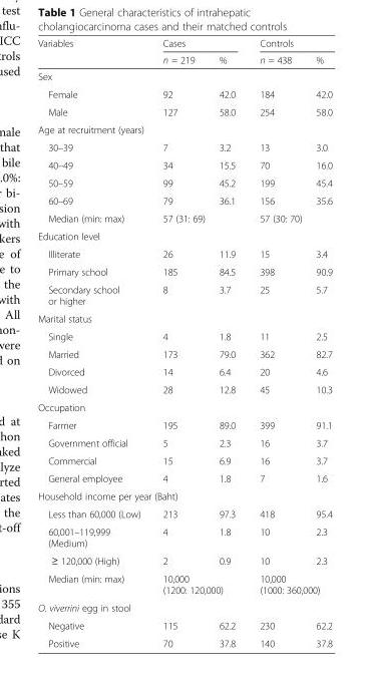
<table><thead><tr><td rowspan="2">Variables</td><td colspan="2">Cases</td><td colspan="2">Controls</td></tr><tr><td>n = 219</td><td>%</td><td>n = 438</td><td>%</td></tr></thead><tbody><tr><td colspan="5">Sex</td></tr><tr><td>Female</td><td>92</td><td>42.0</td><td>184</td><td>42.0</td></tr><tr><td>Male</td><td>127</td><td>58.0</td><td>254</td><td>58.0</td></tr><tr><td colspan="5">Age at recruitment (years)</td></tr><tr><td>30–39</td><td>7</td><td>3.2</td><td>13</td><td>3.0</td></tr><tr><td>40–49</td><td>34</td><td>15.5</td><td>70</td><td>16.0</td></tr><tr><td>50–59</td><td>99</td><td>45.2</td><td>199</td><td>45.4</td></tr><tr><td>60–69</td><td>79</td><td>36.1</td><td>156</td><td>35.6</td></tr><tr><td>Median (min: max)</td><td colspan="2">57 (31: 69)</td><td colspan="2">57 (30: 70)</td></tr><tr><td colspan="5">Education level</td></tr><tr><td>Illiterate</td><td>26</td><td>11.9</td><td>15</td><td>3.4</td></tr><tr><td>Primary school</td><td>185</td><td>84.5</td><td>398</td><td>90.9</td></tr><tr><td>Secondary school or higher</td><td>8</td><td>3.7</td><td>25</td><td>5.7</td></tr><tr><td colspan="5">Marital status</td></tr><tr><td>Single</td><td>4</td><td>1.8</td><td>11</td><td>2.5</td></tr><tr><td>Married</td><td>173</td><td>79.0</td><td>362</td><td>82.7</td></tr><tr><td>Divorced</td><td>14</td><td>6.4</td><td>20</td><td>4.6</td></tr><tr><td>Widowed</td><td>28</td><td>12.8</td><td>45</td><td>10.3</td></tr><tr><td colspan="5">Occupation</td></tr><tr><td>Farmer</td><td>195</td><td>89.0</td><td>399</td><td>91.1</td></tr><tr><td>Government official</td><td>5</td><td>2.3</td><td>16</td><td>3.7</td></tr><tr><td>Commercial</td><td>15</td><td>6.9</td><td>16</td><td>3.7</td></tr><tr><td>General employee</td><td>4</td><td>1.8</td><td>7</td><td>1.6</td></tr><tr><td colspan="5">Household income per year (Baht)</td></tr><tr><td>Less than 60,000 (Low)</td><td>213</td><td>97.3</td><td>418</td><td>95.4</td></tr><tr><td>60,001–119,999 (Medium)</td><td>4</td><td>1.8</td><td>10</td><td>2.3</td></tr><tr><td>≥ 120,000 (High)</td><td>2</td><td>0.9</td><td>10</td><td>2.3</td></tr><tr><td>Median (min: max)</td><td colspan="2">10,000 (1200: 120,000)</td><td colspan="2">10,000 (1000: 360,000)</td></tr><tr><td colspan="5">O. viverrini egg in stool</td></tr><tr><td>Negative</td><td>115</td><td>62.2</td><td>230</td><td>62.2</td></tr><tr><td>Positive</td><td>70</td><td>37.8</td><td>140</td><td>37.8</td></tr></tbody></table>